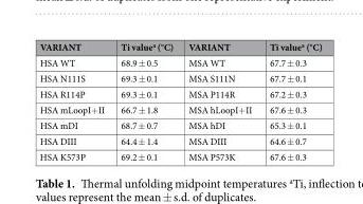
<table><thead><tr><td>VARIANT</td><td>Ti value<sup>a</sup> (°C)</td><td>VARIANT</td><td>Ti value<sup>a</sup> (°C)</td></tr></thead><tbody><tr><td>HSA WT</td><td>68.9 ± 0.5</td><td>MSA WT</td><td>67.7 ± 0.3</td></tr><tr><td>HSA N111S</td><td>69.3 ± 0.1</td><td>MSA S111N</td><td>67.7 ± 0.1</td></tr><tr><td>HSA R114P</td><td>69.3 ± 0.1</td><td>MSA P114R</td><td>67.2 ± 0.3</td></tr><tr><td>HSA mLoopI+II</td><td>66.7 ± 1.8</td><td>MSA hLoopI+II</td><td>67.6 ± 0.3</td></tr><tr><td>HSA mDI</td><td>68.7 ± 0.7</td><td>MSA hDI</td><td>65.3 ± 0.1</td></tr><tr><td>HSA DIII</td><td>64.4 ± 1.4</td><td>MSA DIII</td><td>64.6 ± 0.7</td></tr><tr><td>HSA K573P</td><td>69.2 ± 0.1</td><td>MSA P573K</td><td>67.6 ± 0.3</td></tr></tbody></table>